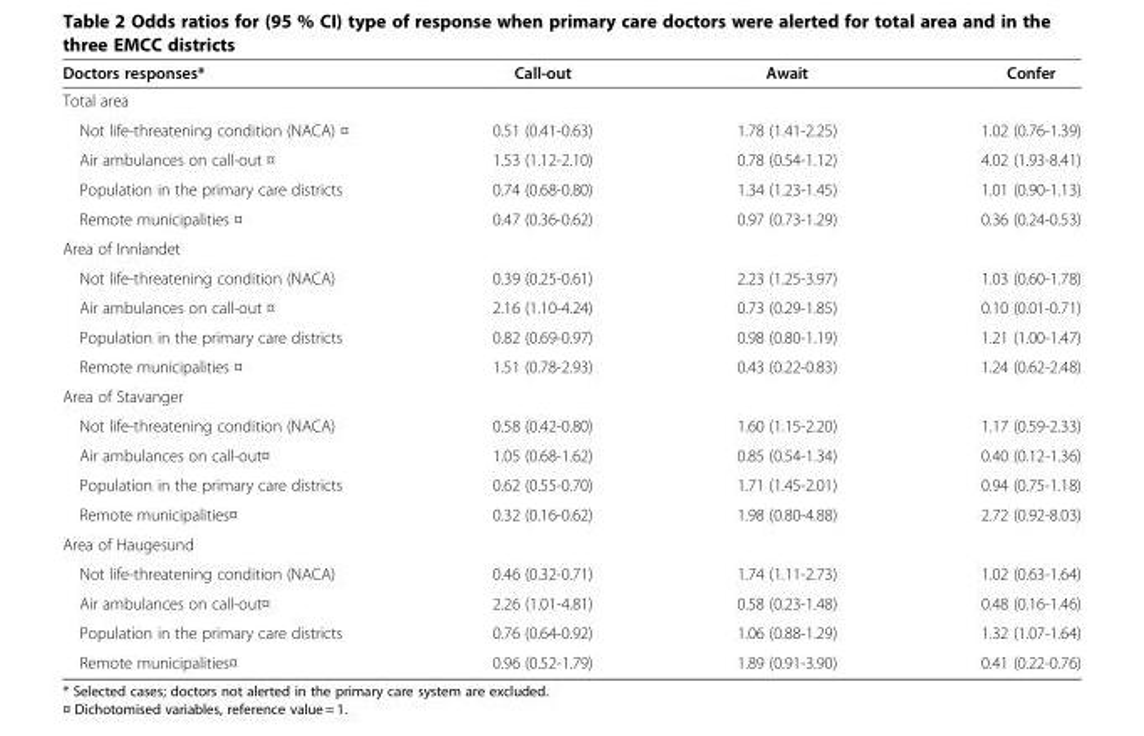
<table><thead><tr><td>Doctors responses*</td><td>Call-out</td><td>Await</td><td>Confer</td></tr></thead><tbody><tr><td colspan="4">Total area</td></tr><tr><td>Not life-threatening condition (NACA) ¤</td><td>0.51 (0.41-0.63)</td><td>1.78 (1.41-2.25)</td><td>1.02 (0.76-1.39)</td></tr><tr><td>Air ambulances on call-out ¤</td><td>1.53 (1.12-2.10)</td><td>0.78 (0.54-1.12)</td><td>4.02 (1.93-8.41)</td></tr><tr><td>Population in the primary care districts</td><td>0.74 (0.68-0.80)</td><td>1.34 (1.23-1.45)</td><td>1.01 (0.90-1.13)</td></tr><tr><td>Remote municipalities ¤</td><td>0.47 (0.36-0.62)</td><td>0.97 (0.73-1.29)</td><td>0.36 (0.24-0.53)</td></tr><tr><td colspan="4">Area of Innlandet</td></tr><tr><td>Not life-threatening condition (NACA)</td><td>0.39 (0.25-0.61)</td><td>2.23 (1.25-3.97)</td><td>1.03 (0.60-1.78)</td></tr><tr><td>Air ambulances on call-out ¤</td><td>2.16 (1.10-4.24)</td><td>0.73 (0.29-1.85)</td><td>0.10 (0.01-0.71)</td></tr><tr><td>Population in the primary care districts</td><td>0.82 (0.69-0.97)</td><td>0.98 (0.80-1.19)</td><td>1.21 (1.00-1.47)</td></tr><tr><td>Remote municipalities ¤</td><td>1.51 (0.78-2.93)</td><td>0.43 (0.22-0.83)</td><td>1.24 (0.62-2.48)</td></tr><tr><td colspan="4">Area of Stavanger</td></tr><tr><td>Not life-threatening condition (NACA)</td><td>0.58 (0.42-0.80)</td><td>1.60 (1.15-2.20)</td><td>1.17 (0.59-2.33)</td></tr><tr><td>Air ambulances on call-out¤</td><td>1.05 (0.68-1.62)</td><td>0.85 (0.54-1.34)</td><td>0.40 (0.12-1.36)</td></tr><tr><td>Population in the primary care districts</td><td>0.62 (0.55-0.70)</td><td>1.71 (1.45-2.01)</td><td>0.94 (0.75-1.18)</td></tr><tr><td>Remote municipalities¤</td><td>0.32 (0.16-0.62)</td><td>1.98 (0.80-4.88)</td><td>2.72 (0.92-8.03)</td></tr><tr><td colspan="4">Area of Haugesund</td></tr><tr><td>Not life-threatening condition (NACA)</td><td>0.46 (0.32-0.71)</td><td>1.74 (1.11-2.73)</td><td>1.02 (0.63-1.64)</td></tr><tr><td>Air ambulances on call-out¤</td><td>2.26 (1.01-4.81)</td><td>0.58 (0.23-1.48)</td><td>0.48 (0.16-1.46)</td></tr><tr><td>Population in the primary care districts</td><td>0.76 (0.64-0.92)</td><td>1.06 (0.88-1.29)</td><td>1.32 (1.07-1.64)</td></tr><tr><td>Remote municipalities¤</td><td>0.96 (0.52-1.79)</td><td>1.89 (0.91-3.90)</td><td>0.41 (0.22-0.76)</td></tr></tbody></table>